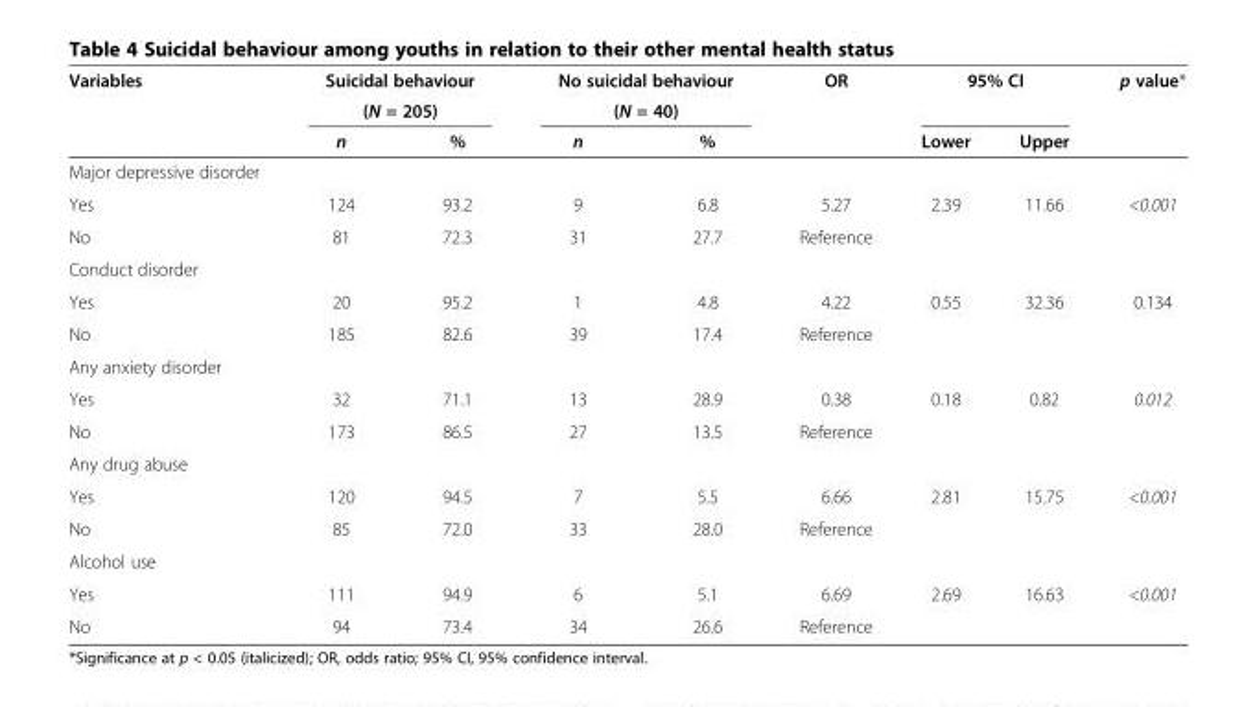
<table><thead><tr><td rowspan="3">Variables</td><td rowspan="2" colspan="2">Suicidal behaviour (N = 205)</td><td rowspan="2" colspan="2">No suicidal behaviour (N = 40)</td><td rowspan="3">OR</td><td colspan="2">95% CI</td><td rowspan="3">p value*</td></tr><tr><td rowspan="2">Lower</td><td rowspan="2">Upper</td></tr><tr><td>n</td><td>%</td><td>n</td><td>%</td></tr></thead><tbody><tr><td colspan="9">Major depressive disorder</td></tr><tr><td>Yes</td><td>124</td><td>93.2</td><td>9</td><td>6.8</td><td>5.27</td><td>2.39</td><td>11.66</td><td>&lt;0.001</td></tr><tr><td>No</td><td>81</td><td>72.3</td><td>31</td><td>27.7</td><td>Reference</td><td></td><td></td><td></td></tr><tr><td colspan="9">Conduct disorder</td></tr><tr><td>Yes</td><td>20</td><td>95.2</td><td>1</td><td>4.8</td><td>4.22</td><td>0.55</td><td>32.36</td><td>0.134</td></tr><tr><td>No</td><td>185</td><td>82.6</td><td>39</td><td>17.4</td><td>Reference</td><td></td><td></td><td></td></tr><tr><td colspan="9">Any anxiety disorder</td></tr><tr><td>Yes</td><td>32</td><td>71.1</td><td>13</td><td>28.9</td><td>0.38</td><td>0.18</td><td>0.82</td><td>0.012</td></tr><tr><td>No</td><td>173</td><td>86.5</td><td>27</td><td>13.5</td><td>Reference</td><td></td><td></td><td></td></tr><tr><td colspan="9">Any drug abuse</td></tr><tr><td>Yes</td><td>120</td><td>94.5</td><td>7</td><td>5.5</td><td>6.66</td><td>2.81</td><td>15.75</td><td>&lt;0.001</td></tr><tr><td>No</td><td>85</td><td>72.0</td><td>33</td><td>28.0</td><td>Reference</td><td></td><td></td><td></td></tr><tr><td colspan="9">Alcohol use</td></tr><tr><td>Yes</td><td>111</td><td>94.9</td><td>6</td><td>5.1</td><td>6.69</td><td>2.69</td><td>16.63</td><td>&lt;0.001</td></tr><tr><td>No</td><td>94</td><td>73.4</td><td>34</td><td>26.6</td><td>Reference</td><td></td><td></td><td></td></tr></tbody></table>